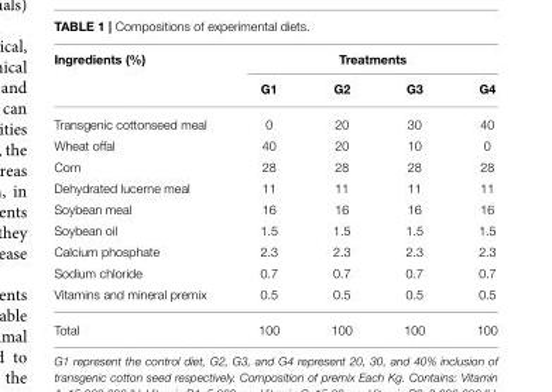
<table><thead><tr><td rowspan="2">Ingredients (%)</td><td colspan="4">Treatments</td></tr><tr><td>G1</td><td>G2</td><td>G3</td><td>G4</td></tr></thead><tbody><tr><td>Transgenic cottonseed meal</td><td>0</td><td>20</td><td>30</td><td>40</td></tr><tr><td>Wheat offal</td><td>40</td><td>20</td><td>10</td><td>0</td></tr><tr><td>Corn</td><td>28</td><td>28</td><td>28</td><td>28</td></tr><tr><td>Dehydrated lucerne meal</td><td>11</td><td>11</td><td>11</td><td>11</td></tr><tr><td>Soybean meal</td><td>16</td><td>16</td><td>16</td><td>16</td></tr><tr><td>Soybean oil</td><td>1.5</td><td>1.5</td><td>1.5</td><td>1.5</td></tr><tr><td>Calcium phosphate</td><td>2.3</td><td>2.3</td><td>2.3</td><td>2.3</td></tr><tr><td>Sodium chloride</td><td>0.7</td><td>0.7</td><td>0.7</td><td>0.7</td></tr><tr><td>Vitamins and mineral premix</td><td>0.5</td><td>0.5</td><td>0.5</td><td>0.5</td></tr><tr><td>Total</td><td>100</td><td>100</td><td>100</td><td>100</td></tr></tbody></table>